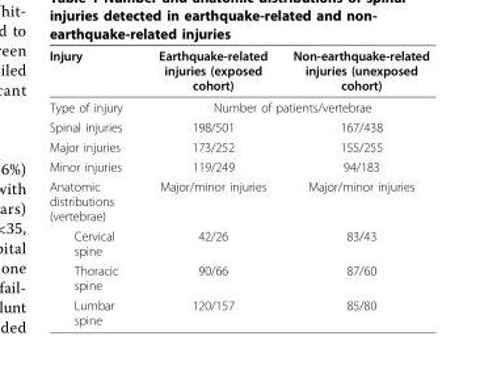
<table><thead><tr><td>Injury</td><td>Earthquake-related injuries (exposed cohort)</td><td>Non-earthquake-related injuries (unexposed cohort)</td></tr></thead><tbody><tr><td>Type of injury</td><td colspan="2">Number of patients/vertebrae</td></tr><tr><td>Spinal injuries</td><td>198/501</td><td>167/438</td></tr><tr><td>Major injuries</td><td>173/252</td><td>155/255</td></tr><tr><td>Minor injuries</td><td>119/249</td><td>94/183</td></tr><tr><td>Anatomic distributions (vertebrae)</td><td>Major/minor injuries</td><td>Major/minor injuries</td></tr><tr><td>Cervical spine</td><td>42/26</td><td>83/43</td></tr><tr><td>Thoracic spine</td><td>90/66</td><td>87/60</td></tr><tr><td>Lumbar spine</td><td>120/157</td><td>85/80</td></tr></tbody></table>